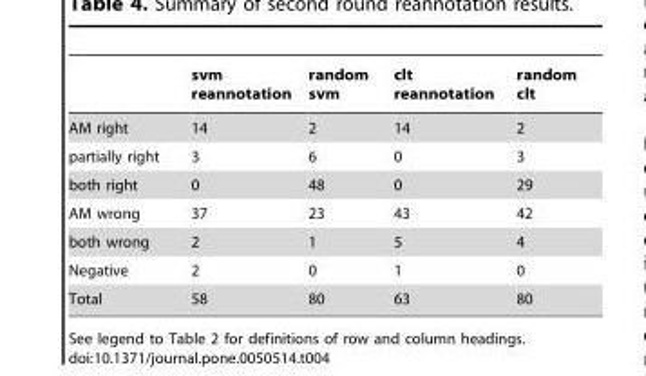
<table><thead><tr><td></td><td>svm reannotation</td><td>random svm</td><td>clt reannotation</td><td>random clt</td></tr></thead><tbody><tr><td>AM right</td><td>14</td><td>2</td><td>14</td><td>2</td></tr><tr><td>partially right</td><td>3</td><td>6</td><td>0</td><td>3</td></tr><tr><td>both right</td><td>0</td><td>48</td><td>0</td><td>29</td></tr><tr><td>AM wrong</td><td>37</td><td>23</td><td>43</td><td>42</td></tr><tr><td>both wrong</td><td>2</td><td>1</td><td>5</td><td>4</td></tr><tr><td>Negative</td><td>2</td><td>0</td><td>1</td><td>0</td></tr><tr><td>Total</td><td>58</td><td>80</td><td>63</td><td>80</td></tr></tbody></table>